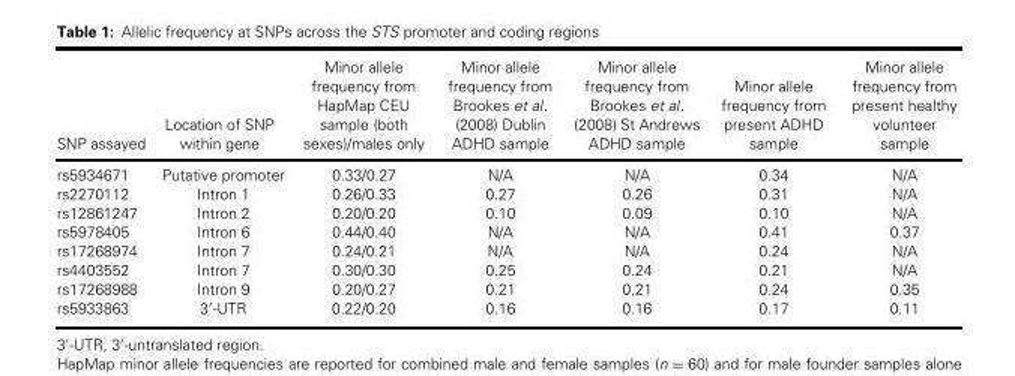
<table><thead><tr><td>SNP assayed</td><td>Location of SNP within gene</td><td>Minor allele frequency from HapMap CEU sample (both sexes)/males only</td><td>Minor allele frequency from Brookes et al. (2008) Dublin ADHD sample</td><td>Minor allele frequency from Brookes et al. (2008) St Andrews ADHD sample</td><td>Minor allele frequency from present ADHD sample</td><td>Minor allele frequency from present healthy volunteer sample</td></tr></thead><tbody><tr><td>rs5934671</td><td>Putative promoter</td><td>0.33/0.27</td><td>N/A</td><td>N/A</td><td>0.34</td><td>N/A</td></tr><tr><td>rs2270112</td><td>Intron 1</td><td>0.26/0.33</td><td>0.27</td><td>0.26</td><td>0.31</td><td>N/A</td></tr><tr><td>rs12861247</td><td>Intron 2</td><td>0.20/0.20</td><td>0.10</td><td>0.09</td><td>0.10</td><td>N/A</td></tr><tr><td>rs5978405</td><td>Intron 6</td><td>0.44/0.40</td><td>N/A</td><td>N/A</td><td>0.41</td><td>0.37</td></tr><tr><td>rs17268974</td><td>Intron 7</td><td>0.24/0.21</td><td>N/A</td><td>N/A</td><td>0.24</td><td>N/A</td></tr><tr><td>rs4403552</td><td>Intron 7</td><td>0.30/0.30</td><td>0.25</td><td>0.24</td><td>0.21</td><td>N/A</td></tr><tr><td>rs17268988</td><td>Intron 9</td><td>0.20/0.27</td><td>0.21</td><td>0.21</td><td>0.24</td><td>0.35</td></tr><tr><td>rs5933863</td><td>3′-UTR</td><td>0.22/0.20</td><td>0.16</td><td>0.16</td><td>0.17</td><td>0.11</td></tr></tbody></table>